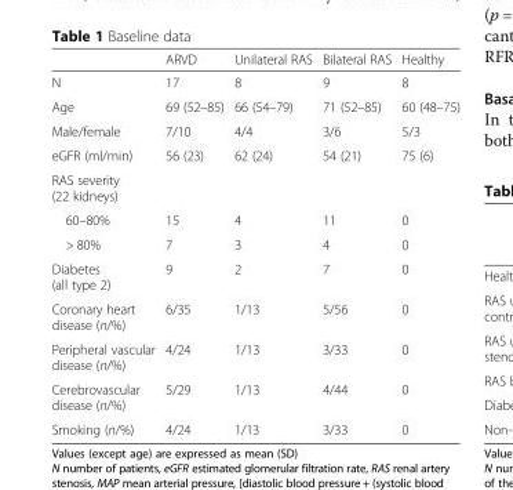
<table><thead><tr><td></td><td>ARVD</td><td>Unilateral RAS</td><td>Bilateral RAS</td><td>Healthy</td></tr></thead><tbody><tr><td>N</td><td>17</td><td>8</td><td>9</td><td>8</td></tr><tr><td>Age</td><td>69 (52–85)</td><td>66 (54–79)</td><td>71 (52–85)</td><td>60 (48–75)</td></tr><tr><td>Male/female</td><td>7/10</td><td>4/4</td><td>3/6</td><td>5/3</td></tr><tr><td>eGFR (ml/min)</td><td>56 (23)</td><td>62 (24)</td><td>54 (21)</td><td>75 (6)</td></tr><tr><td colspan="5">RAS severity (22 kidneys)</td></tr><tr><td>60–80%</td><td>15</td><td>4</td><td>11</td><td>0</td></tr><tr><td>&gt; 80%</td><td>7</td><td>3</td><td>4</td><td>0</td></tr><tr><td>Diabetes (all type 2)</td><td>9</td><td>2</td><td>7</td><td>0</td></tr><tr><td>Coronary heart disease (n/%)</td><td>6/35</td><td>1/13</td><td>5/56</td><td>0</td></tr><tr><td>Peripheral vascular disease (n/%)</td><td>4/24</td><td>1/13</td><td>3/33</td><td>0</td></tr><tr><td>Cerebrovascular disease (n/%)</td><td>5/29</td><td>1/13</td><td>4/44</td><td>0</td></tr><tr><td>Smoking (n/%)</td><td>4/24</td><td>1/13</td><td>3/33</td><td>0</td></tr></tbody></table>